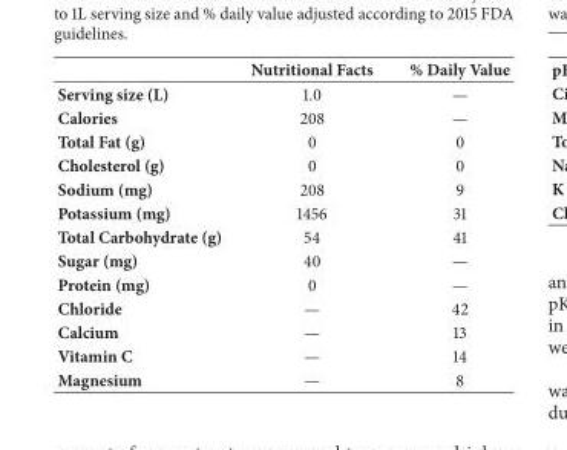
<table><thead><tr><td></td><td>Nutritional Facts</td><td>% Daily Value</td></tr></thead><tbody><tr><td>Serving size (L)</td><td>1.0</td><td>—</td></tr><tr><td>Calories</td><td>208</td><td>—</td></tr><tr><td>Total Fat (g)</td><td>0</td><td>0</td></tr><tr><td>Cholesterol (g)</td><td>0</td><td>0</td></tr><tr><td>Sodium (mg)</td><td>208</td><td>9</td></tr><tr><td>Potassium (mg)</td><td>1456</td><td>31</td></tr><tr><td>Total Carbohydrate (g)</td><td>54</td><td>41</td></tr><tr><td>Sugar (mg)</td><td>40</td><td>—</td></tr><tr><td>Protein (mg)</td><td>0</td><td>—</td></tr><tr><td>Chloride</td><td>—</td><td>42</td></tr><tr><td>Calcium</td><td>—</td><td>13</td></tr><tr><td>Vitamin C</td><td>—</td><td>14</td></tr><tr><td>Magnesium</td><td>—</td><td>8</td></tr></tbody></table>